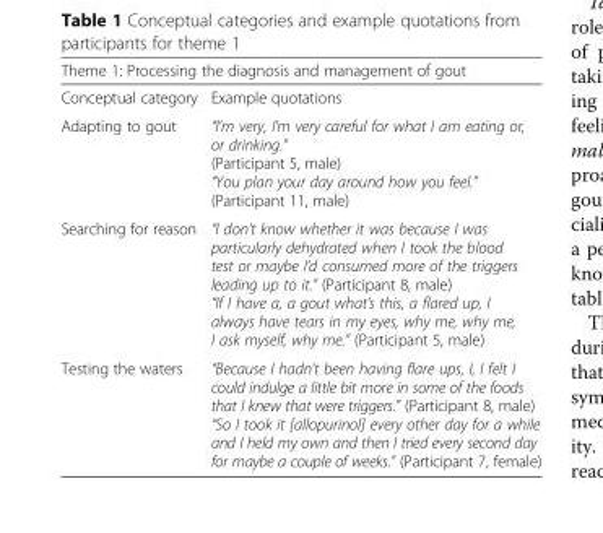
<table><thead><tr><td colspan="2">Theme 1: Processing the diagnosis and management of gout</td></tr><tr><td>Conceptual category</td><td>Example quotations</td></tr></thead><tbody><tr><td>Adapting to gout</td><td>“I’m very, I’m very careful for what I am eating or, or drinking.” (Participant 5, male) “You plan your day around how you feel.” (Participant 11, male)</td></tr><tr><td>Searching for reason</td><td>“I don’t know whether it was because I was particularly dehydrated when I took the blood test or maybe I’d consumed more of the triggers leading up to it.” (Participant 8, male) “If I have a, a gout what’s this, a flared up, I always have tears in my eyes, why me, why me, I ask myself, why me.” (Participant 5, male)</td></tr><tr><td>Testing the waters</td><td>“Because I hadn’t been having flare ups, I, I felt I could indulge a little bit more in some of the foods that I knew that were triggers.” (Participant 8, male) “So I took it [allopurinol] every other day for a while and I held my own and then I tried every second day for maybe a couple of weeks.” (Participant 7, female)</td></tr></tbody></table>